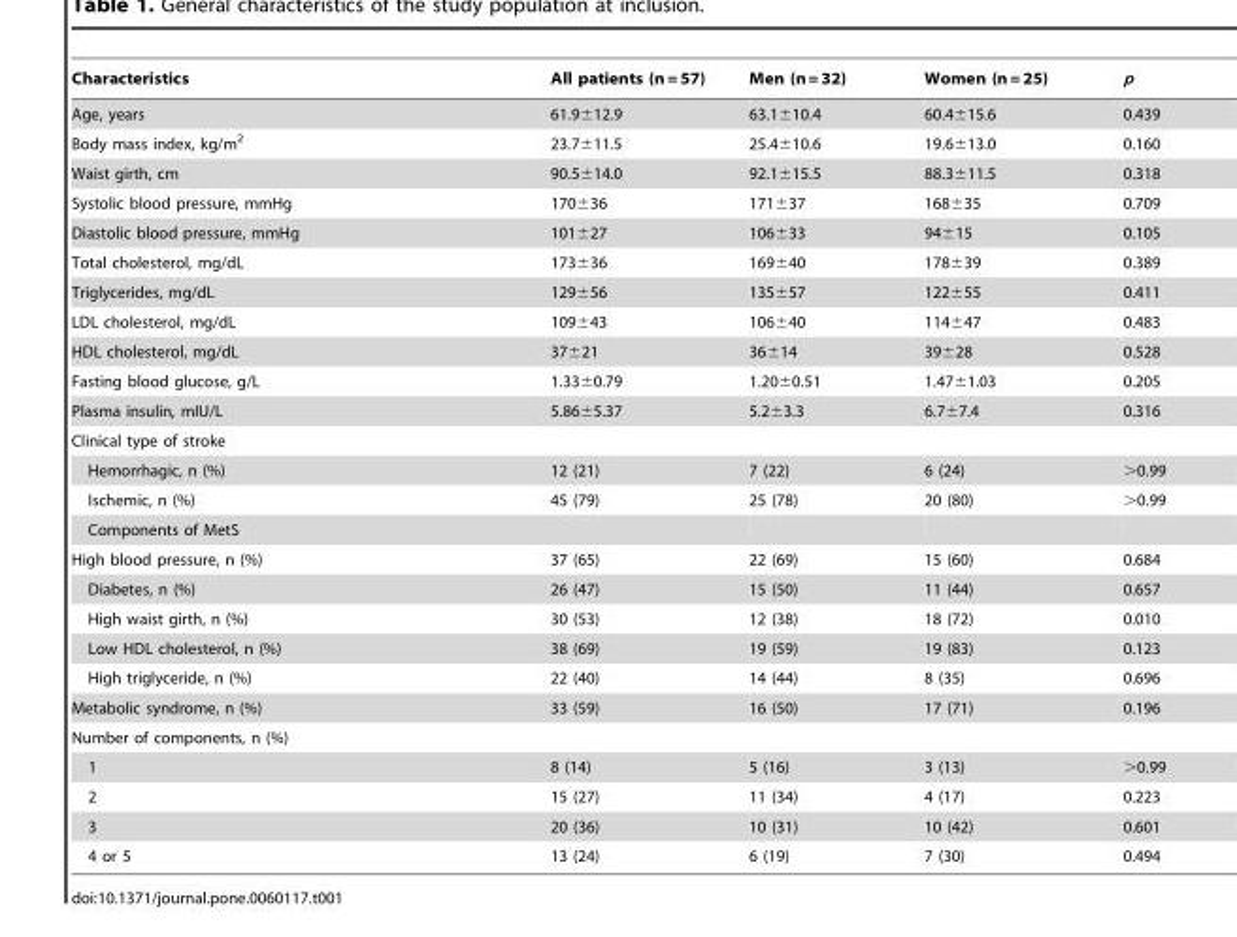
<table><thead><tr><td>Characteristics</td><td>All patients (n = 57)</td><td>Men (n = 32)</td><td>Women (n = 25)</td><td>p</td></tr></thead><tbody><tr><td>Age, years</td><td>61.9±12.9</td><td>63.1±10.4</td><td>60.4±15.6</td><td>0.439</td></tr><tr><td>Body mass index, kg/m<sup>2</sup></td><td>23.7±11.5</td><td>25.4±10.6</td><td>19.6±13.0</td><td>0.160</td></tr><tr><td>Waist girth, cm</td><td>90.5±14.0</td><td>92.1±15.5</td><td>88.3±11.5</td><td>0.318</td></tr><tr><td>Systolic blood pressure, mmHg</td><td>170±36</td><td>171±37</td><td>168±35</td><td>0.709</td></tr><tr><td>Diastolic blood pressure, mmHg</td><td>101±27</td><td>106±33</td><td>94±15</td><td>0.105</td></tr><tr><td>Total cholesterol, mg/dL</td><td>173±36</td><td>169±40</td><td>178±39</td><td>0.389</td></tr><tr><td>Triglycerides, mg/dL</td><td>129±56</td><td>135±57</td><td>122±55</td><td>0.411</td></tr><tr><td>LDL cholesterol, mg/dL</td><td>109±43</td><td>106±40</td><td>114±47</td><td>0.483</td></tr><tr><td>HDL cholesterol, mg/dL</td><td>37±21</td><td>36±14</td><td>39±28</td><td>0.528</td></tr><tr><td>Fasting blood glucose, g/L</td><td>1.33±0.79</td><td>1.20±0.51</td><td>1.47±1.03</td><td>0.205</td></tr><tr><td>Plasma insulin, mIU/L</td><td>5.86±5.37</td><td>5.2±3.3</td><td>6.7±7.4</td><td>0.316</td></tr><tr><td colspan="5">Clinical type of stroke</td></tr><tr><td>Hemorrhagic, n (%)</td><td>12 (21)</td><td>7 (22)</td><td>6 (24)</td><td>&gt;0.99</td></tr><tr><td>Ischemic, n (%)</td><td>45 (79)</td><td>25 (78)</td><td>20 (80)</td><td>&gt;0.99</td></tr><tr><td colspan="5">Components of MetS</td></tr><tr><td>High blood pressure, n (%)</td><td>37 (65)</td><td>22 (69)</td><td>15 (60)</td><td>0.684</td></tr><tr><td>Diabetes, n (%)</td><td>26 (47)</td><td>15 (50)</td><td>11 (44)</td><td>0.657</td></tr><tr><td>High waist girth, n (%)</td><td>30 (53)</td><td>12 (38)</td><td>18 (72)</td><td>0.010</td></tr><tr><td>Low HDL cholesterol, n (%)</td><td>38 (69)</td><td>19 (59)</td><td>19 (83)</td><td>0.123</td></tr><tr><td>High triglyceride, n (%)</td><td>22 (40)</td><td>14 (44)</td><td>8 (35)</td><td>0.696</td></tr><tr><td>Metabolic syndrome, n (%)</td><td>33 (59)</td><td>16 (50)</td><td>17 (71)</td><td>0.196</td></tr><tr><td colspan="5">Number of components, n (%)</td></tr><tr><td>1</td><td>8 (14)</td><td>5 (16)</td><td>3 (13)</td><td>&gt;0.99</td></tr><tr><td>2</td><td>15 (27)</td><td>11 (34)</td><td>4 (17)</td><td>0.223</td></tr><tr><td>3</td><td>20 (36)</td><td>10 (31)</td><td>10 (42)</td><td>0.601</td></tr><tr><td>4 or 5</td><td>13 (24)</td><td>6 (19)</td><td>7 (30)</td><td>0.494</td></tr></tbody></table>